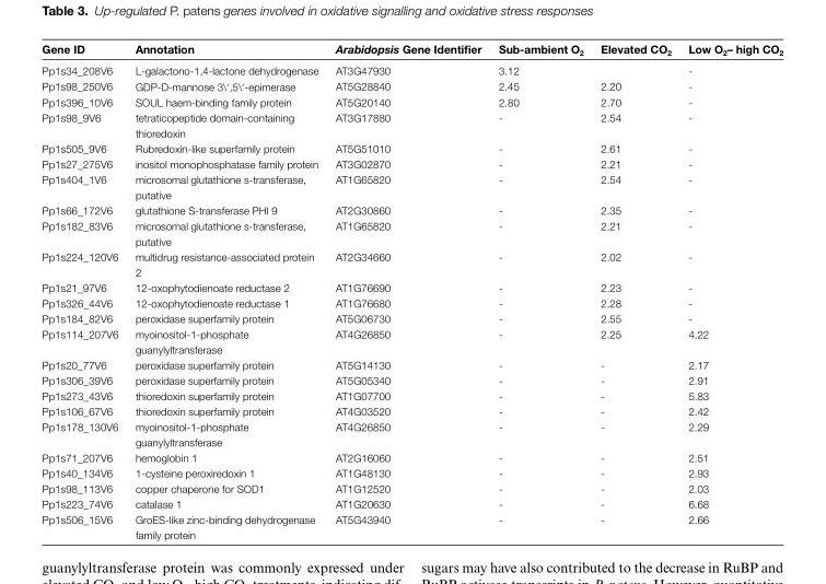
<table><thead><tr><td>Gene ID</td><td>Annotation</td><td>Arabidopsis Gene Identifier</td><td>Sub-ambient O<sub>2</sub></td><td>Elevated CO<sub>2</sub></td><td>Low O<sub>2</sub>– high CO<sub>2</sub></td></tr></thead><tbody><tr><td>Pp1s34_208V6</td><td>L-galactono-1,4-lactone dehydrogenase</td><td>AT3G47930</td><td>3.12</td><td></td><td>-</td></tr><tr><td>Pp1s98_250V6</td><td>GDP-D-mannose 3\\u2032,5\\u2032-epimerase</td><td>AT5G28840</td><td>2.45</td><td>2.20</td><td>-</td></tr><tr><td>Pp1s396_10V6</td><td>SOUL haem-binding family protein</td><td>AT5G20140</td><td>2.80</td><td>2.70</td><td>-</td></tr><tr><td>Pp1s98_9V6</td><td>tetraticopeptide domain-containing thioredoxin</td><td>AT3G17880</td><td>-</td><td>2.54</td><td>-</td></tr><tr><td>Pp1s505_9V6</td><td>Rubredoxin-like superfamily protein</td><td>AT5G51010</td><td>-</td><td>2.61</td><td>-</td></tr><tr><td>Pp1s27_275V6</td><td>inositol monophosphatase family protein</td><td>AT3G02870</td><td>-</td><td>2.21</td><td>-</td></tr><tr><td>Pp1s404_1V6</td><td>microsomal glutathione s-transferase, putative</td><td>AT1G65820</td><td>-</td><td>2.54</td><td>-</td></tr><tr><td>Pp1s66_172V6</td><td>glutathione S-transferase PHI 9</td><td>AT2G30860</td><td>-</td><td>2.35</td><td>-</td></tr><tr><td>Pp1s182_83V6</td><td>microsomal glutathione s-transferase, putative</td><td>AT1G65820</td><td>-</td><td>2.21</td><td>-</td></tr><tr><td>Pp1s224_120V6</td><td>multidrug resistance-associated protein 2</td><td>AT2G34660</td><td>-</td><td>2.02</td><td>-</td></tr><tr><td>Pp1s21_97V6</td><td>12-oxophytodienoate reductase 2</td><td>AT1G76690</td><td>-</td><td>2.23</td><td>-</td></tr><tr><td>Pp1s326_44V6</td><td>12-oxophytodienoate reductase 1</td><td>AT1G76680</td><td>-</td><td>2.28</td><td>-</td></tr><tr><td>Pp1s184_82V6</td><td>peroxidase superfamily protein</td><td>AT5G06730</td><td>-</td><td>2.55</td><td>-</td></tr><tr><td>Pp1s114_207V6</td><td>myoinositol-1-phosphate guanylyltransferase</td><td>AT4G26850</td><td>-</td><td>2.25</td><td>4.22</td></tr><tr><td>Pp1s20_77V6</td><td>peroxidase superfamily protein</td><td>AT5G14130</td><td>-</td><td>-</td><td>2.17</td></tr><tr><td>Pp1s306_39V6</td><td>peroxidase superfamily protein</td><td>AT5G05340</td><td>-</td><td>-</td><td>2.91</td></tr><tr><td>Pp1s273_43V6</td><td>thioredoxin superfamily protein</td><td>AT1G07700</td><td>-</td><td>-</td><td>5.83</td></tr><tr><td>Pp1s106_67V6</td><td>thioredoxin superfamily protein</td><td>AT4G03520</td><td>-</td><td>-</td><td>2.42</td></tr><tr><td>Pp1s178_130V6</td><td>myoinositol-1-phosphate guanylyltransferase</td><td>AT4G26850</td><td>-</td><td>-</td><td>2.29</td></tr><tr><td>Pp1s71_207V6</td><td>hemoglobin 1</td><td>AT2G16060</td><td>-</td><td>-</td><td>2.51</td></tr><tr><td>Pp1s40_134V6</td><td>1-cysteine peroxiredoxin 1</td><td>AT1G48130</td><td>-</td><td>-</td><td>2.93</td></tr><tr><td>Pp1s98_113V6</td><td>copper chaperone for SOD1</td><td>AT1G12520</td><td>-</td><td>-</td><td>2.03</td></tr><tr><td>Pp1s223_74V6</td><td>catalase 1</td><td>AT1G20630</td><td>-</td><td>-</td><td>6.68</td></tr><tr><td>Pp1s506_15V6</td><td>GroES-like zinc-binding dehydrogenase family protein</td><td>AT5G43940</td><td>-</td><td>-</td><td>2.66</td></tr></tbody></table>